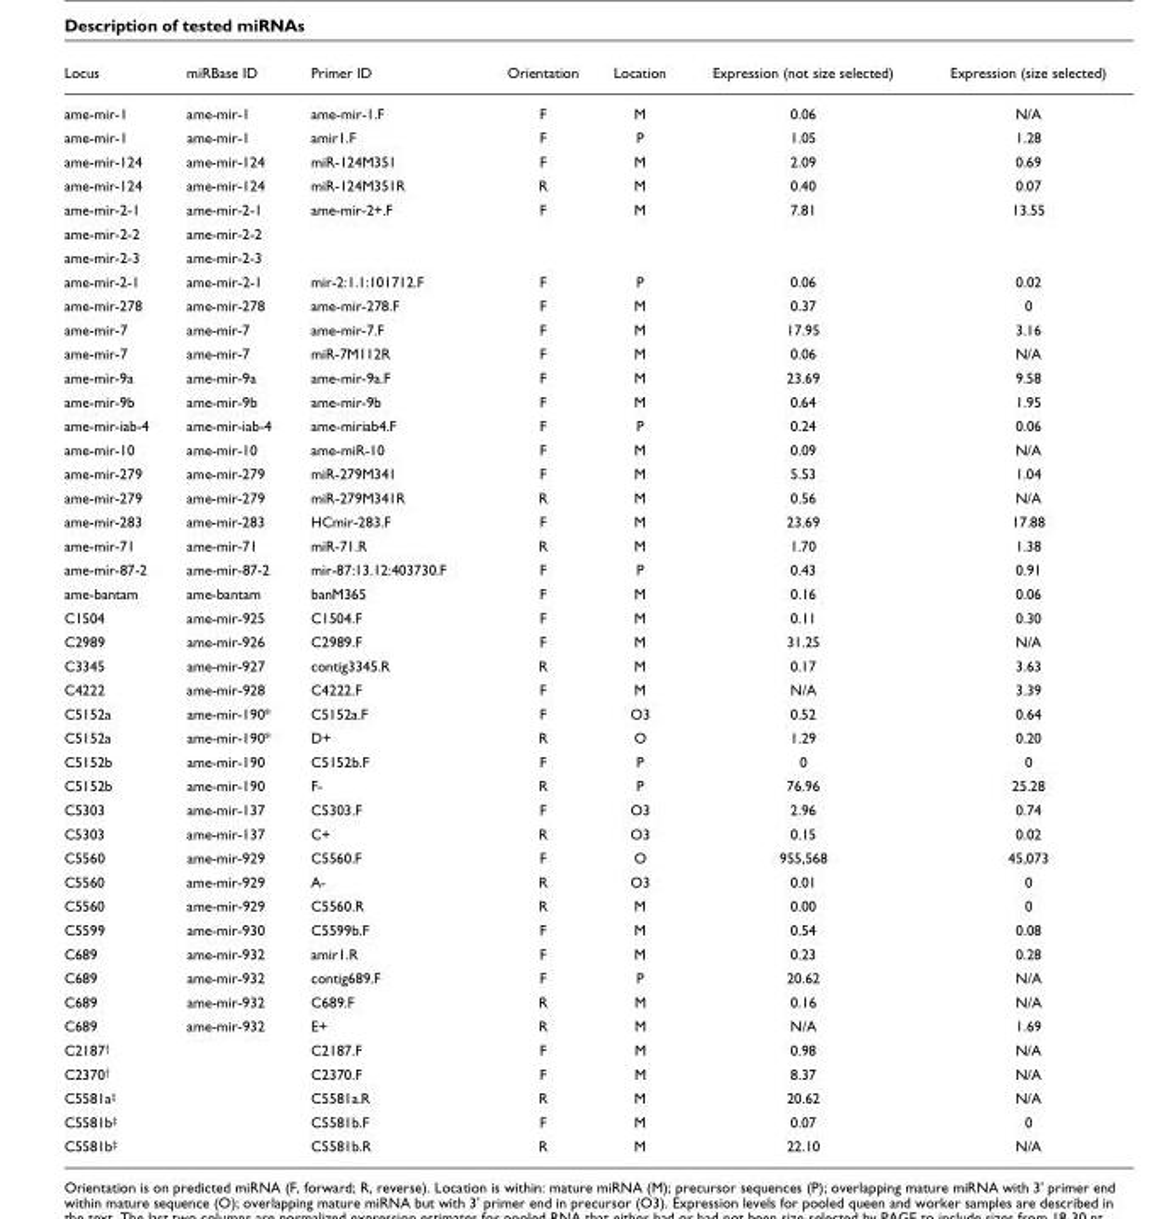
<table><thead><tr><td>Locus</td><td>miRBase ID</td><td>Primer ID</td><td>Orientation</td><td>Location</td><td>Expression (not size selected)</td><td>Expression (size selected)</td></tr></thead><tbody><tr><td>ame-mir-1</td><td>ame-mir-1</td><td>ame-mir-1.F</td><td>F</td><td>M</td><td>0.06</td><td>N/A</td></tr><tr><td>ame-mir-1</td><td>ame-mir-1</td><td>amir1.F</td><td>F</td><td>P</td><td>1.05</td><td>1.28</td></tr><tr><td>ame-mir-124</td><td>ame-mir-124</td><td>miR-124M351</td><td>F</td><td>M</td><td>2.09</td><td>0.69</td></tr><tr><td>ame-mir-124</td><td>ame-mir-124</td><td>miR-124M351R</td><td>R</td><td>M</td><td>0.40</td><td>0.07</td></tr><tr><td>ame-mir-2-1</td><td>ame-mir-2-1</td><td>ame-mir-2+.F</td><td>F</td><td>M</td><td>7.81</td><td>13.55</td></tr><tr><td>ame-mir-2-2</td><td>ame-mir-2-2</td><td></td><td></td><td></td><td></td><td></td></tr><tr><td>ame-mir-2-3</td><td>ame-mir-2-3</td><td></td><td></td><td></td><td></td><td></td></tr><tr><td>ame-mir-2-1</td><td>ame-mir-2-1</td><td>mir-2:1.1:101712.F</td><td>F</td><td>P</td><td>0.06</td><td>0.02</td></tr><tr><td>ame-mir-278</td><td>ame-mir-278</td><td>ame-mir-278.F</td><td>F</td><td>M</td><td>0.37</td><td>0</td></tr><tr><td>ame-mir-7</td><td>ame-mir-7</td><td>ame-mir-7.F</td><td>F</td><td>M</td><td>17.95</td><td>3.16</td></tr><tr><td>ame-mir-7</td><td>ame-mir-7</td><td>miR-7M112R</td><td>F</td><td>M</td><td>0.06</td><td>N/A</td></tr><tr><td>ame-mir-9a</td><td>ame-mir-9a</td><td>ame-mir-9a.F</td><td>F</td><td>M</td><td>23.69</td><td>9.58</td></tr><tr><td>ame-mir-9b</td><td>ame-mir-9b</td><td>ame-mir-9b</td><td>F</td><td>M</td><td>0.64</td><td>1.95</td></tr><tr><td>ame-mir-iab-4</td><td>ame-mir-iab-4</td><td>ame-miriab4.F</td><td>F</td><td>P</td><td>0.24</td><td>0.06</td></tr><tr><td>ame-mir-10</td><td>ame-mir-10</td><td>ame-miR-10</td><td>F</td><td>M</td><td>0.09</td><td>N/A</td></tr><tr><td>ame-mir-279</td><td>ame-mir-279</td><td>miR-279M341</td><td>F</td><td>M</td><td>5.53</td><td>1.04</td></tr><tr><td>ame-mir-279</td><td>ame-mir-279</td><td>miR-279M341R</td><td>R</td><td>M</td><td>0.56</td><td>N/A</td></tr><tr><td>ame-mir-283</td><td>ame-mir-283</td><td>HCmir-283.F</td><td>F</td><td>M</td><td>23.69</td><td>17.88</td></tr><tr><td>ame-mir-71</td><td>ame-mir-71</td><td>miR-71.R</td><td>R</td><td>M</td><td>1.70</td><td>1.38</td></tr><tr><td>ame-mir-87-2</td><td>ame-mir-87-2</td><td>mir-87:13.12:403730.F</td><td>F</td><td>P</td><td>0.43</td><td>0.91</td></tr><tr><td>ame-bantam</td><td>ame-bantam</td><td>banM365</td><td>F</td><td>M</td><td>0.16</td><td>0.06</td></tr><tr><td>C1504</td><td>ame-mir-925</td><td>C1504.F</td><td>F</td><td>M</td><td>0.11</td><td>0.30</td></tr><tr><td>C2989</td><td>ame-mir-926</td><td>C2989.F</td><td>F</td><td>M</td><td>31.25</td><td>N/A</td></tr><tr><td>C3345</td><td>ame-mir-927</td><td>contig3345.R</td><td>R</td><td>M</td><td>0.17</td><td>3.63</td></tr><tr><td>C4222</td><td>ame-mir-928</td><td>C4222.F</td><td>F</td><td>M</td><td>N/A</td><td>3.39</td></tr><tr><td>C5152a</td><td>ame-mir-190*</td><td>C5152a.F</td><td>F</td><td>O3</td><td>0.52</td><td>0.64</td></tr><tr><td>C5152a</td><td>ame-mir-190*</td><td>D+</td><td>R</td><td>O</td><td>1.29</td><td>0.20</td></tr><tr><td>C5152b</td><td>ame-mir-190</td><td>C5152b.F</td><td>F</td><td>P</td><td>0</td><td>0</td></tr><tr><td>C5152b</td><td>ame-mir-190</td><td>F-</td><td>R</td><td>P</td><td>76.96</td><td>25.28</td></tr><tr><td>C5303</td><td>ame-mir-137</td><td>C5303.F</td><td>F</td><td>O3</td><td>2.96</td><td>0.74</td></tr><tr><td>C5303</td><td>ame-mir-137</td><td>C+</td><td>R</td><td>O3</td><td>0.15</td><td>0.02</td></tr><tr><td>C5560</td><td>ame-mir-929</td><td>C5560.F</td><td>F</td><td>O</td><td>955,568</td><td>45,073</td></tr><tr><td>C5560</td><td>ame-mir-929</td><td>A-</td><td>R</td><td>O3</td><td>0.01</td><td>0</td></tr><tr><td>C5560</td><td>ame-mir-929</td><td>C5560.R</td><td>R</td><td>M</td><td>0.00</td><td>0</td></tr><tr><td>C5599</td><td>ame-mir-930</td><td>C5599b.F</td><td>F</td><td>M</td><td>0.54</td><td>0.08</td></tr><tr><td>C689</td><td>ame-mir-932</td><td>amir1.R</td><td>F</td><td>M</td><td>0.23</td><td>0.28</td></tr><tr><td>C689</td><td>ame-mir-932</td><td>contig689.F</td><td>F</td><td>P</td><td>20.62</td><td>N/A</td></tr><tr><td>C689</td><td>ame-mir-932</td><td>C689.F</td><td>R</td><td>M</td><td>0.16</td><td>N/A</td></tr><tr><td>C689</td><td>ame-mir-932</td><td>E+</td><td>R</td><td>M</td><td>N/A</td><td>1.69</td></tr><tr><td>C2187<sup>†</sup></td><td></td><td>C2187.F</td><td>F</td><td>M</td><td>0.98</td><td>N/A</td></tr><tr><td>C2370<sup>†</sup></td><td></td><td>C2370.F</td><td>F</td><td>M</td><td>8.37</td><td>N/A</td></tr><tr><td>C5581a<sup>‡</sup></td><td></td><td>C5581a.R</td><td>R</td><td>M</td><td>20.62</td><td>N/A</td></tr><tr><td>C5581b<sup>‡</sup></td><td></td><td>C5581b.F</td><td>F</td><td>M</td><td>0.07</td><td>0</td></tr><tr><td>C5581b<sup>‡</sup></td><td></td><td>C5581b.R</td><td>R</td><td>M</td><td>22.10</td><td>N/A</td></tr></tbody></table>